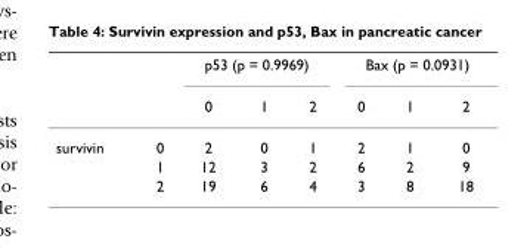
<table><thead><tr><td rowspan="2"></td><td rowspan="2"></td><td colspan="3">p53 (p = 0.9969)</td><td colspan="3">Bax (p = 0.0931)</td></tr><tr><td>0</td><td>1</td><td>2</td><td>0</td><td>1</td><td>2</td></tr></thead><tbody><tr><td rowspan="3">survivin</td><td>0</td><td>2</td><td>0</td><td>1</td><td>2</td><td>1</td><td>0</td></tr><tr><td>1</td><td>12</td><td>3</td><td>2</td><td>6</td><td>2</td><td>9</td></tr><tr><td>2</td><td>19</td><td>6</td><td>4</td><td>3</td><td>8</td><td>18</td></tr></tbody></table>